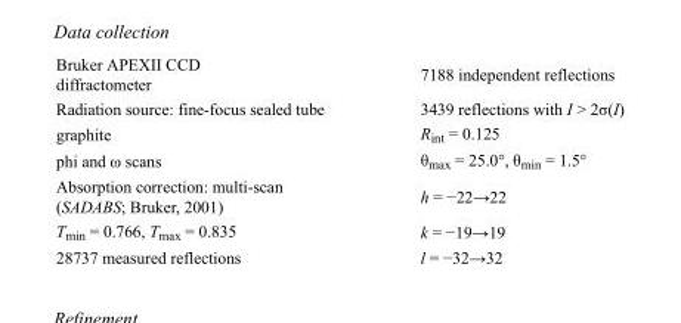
<table><tbody><tr><td>Bruker APEXII CCD diffractometer</td><td>7188 independent reflections</td></tr><tr><td>Radiation source: fine-focus sealed tube</td><td>3439 reflections with I &gt; 2σ(I)</td></tr><tr><td>graphite</td><td>R<sub>int</sub> = 0.125</td></tr><tr><td>phi and ω scans</td><td>θ<sub>max</sub> = 25.0°, θ<sub>min</sub> = 1.5°</td></tr><tr><td>Absorption correction: multi-scan (SADABS; Bruker, 2001)</td><td>h = −22→22</td></tr><tr><td>T<sub>min</sub> = 0.766, T<sub>max</sub> = 0.835</td><td>k = −19→19</td></tr><tr><td>28737 measured reflections</td><td>l = −32→32</td></tr></tbody></table>